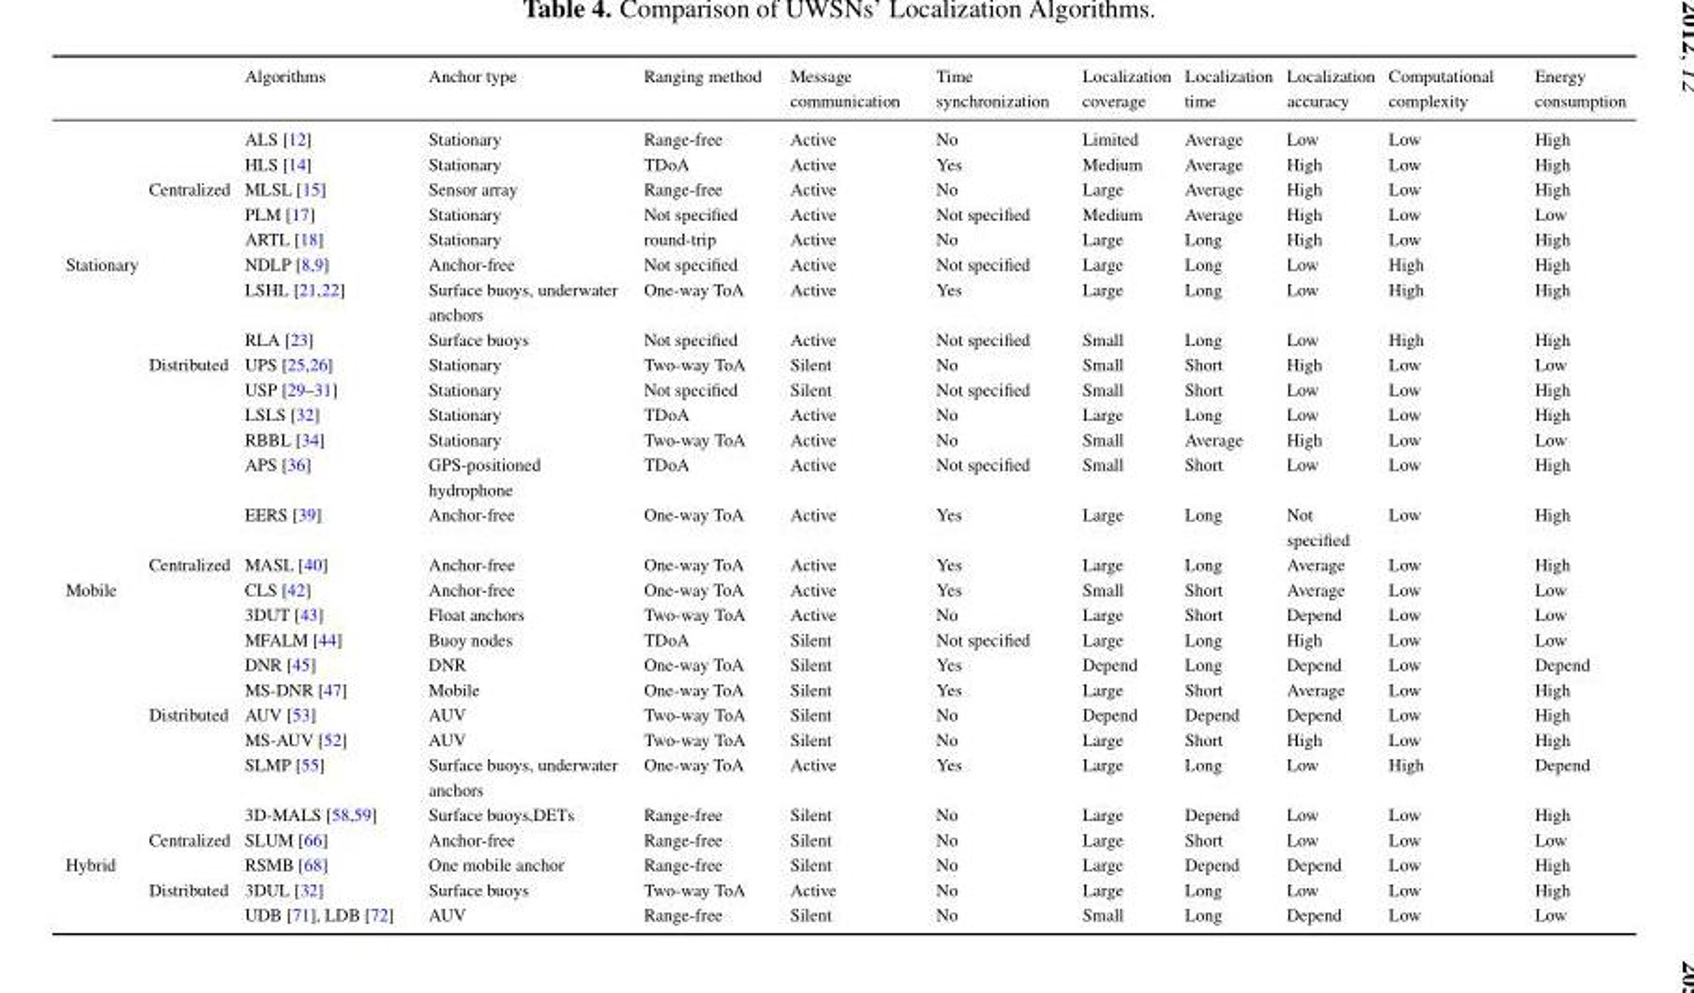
<table><thead><tr><td></td><td></td><td>Algorithms</td><td>Anchor type</td><td>Ranging method</td><td>Message communication</td><td>Time synchronization</td><td>Localization coverage</td><td>Localization time</td><td>Localization accuracy</td><td>Computational complexity</td><td>Energy consumption</td></tr></thead><tbody><tr><td></td><td></td><td>ALS [12]</td><td>Stationary</td><td>Range-free</td><td>Active</td><td>No</td><td>Limited</td><td>Average</td><td>Low</td><td>Low</td><td>High</td></tr><tr><td></td><td></td><td>HLS [14]</td><td>Stationary</td><td>TDoA</td><td>Active</td><td>Yes</td><td>Medium</td><td>Average</td><td>High</td><td>Low</td><td>High</td></tr><tr><td></td><td>Centralized</td><td>MLSL [15]</td><td>Sensor array</td><td>Range-free</td><td>Active</td><td>No</td><td>Large</td><td>Average</td><td>High</td><td>Low</td><td>High</td></tr><tr><td></td><td></td><td>PLM [17]</td><td>Stationary</td><td>Not specified</td><td>Active</td><td>Not specified</td><td>Medium</td><td>Average</td><td>High</td><td>Low</td><td>Low</td></tr><tr><td></td><td></td><td>ARTL [18]</td><td>Stationary</td><td>round-trip</td><td>Active</td><td>No</td><td>Large</td><td>Long</td><td>High</td><td>Low</td><td>High</td></tr><tr><td rowspan="10">Stationary</td><td></td><td>NDLP [8,9]</td><td>Anchor-free</td><td>Not specified</td><td>Active</td><td>Not specified</td><td>Large</td><td>Long</td><td>Low</td><td>High</td><td>High</td></tr><tr><td></td><td>LSHL [21,22]</td><td>Surface buoys, underwater anchors</td><td>One-way ToA</td><td>Active</td><td>Yes</td><td>Large</td><td>Long</td><td>Low</td><td>High</td><td>High</td></tr><tr><td></td><td>RLA [23]</td><td>Surface buoys</td><td>Not specified</td><td>Active</td><td>Not specified</td><td>Small</td><td>Long</td><td>Low</td><td>High</td><td>High</td></tr><tr><td>Distributed</td><td>UPS [25,26]</td><td>Stationary</td><td>Two-way ToA</td><td>Silent</td><td>No</td><td>Small</td><td>Short</td><td>High</td><td>Low</td><td>Low</td></tr><tr><td></td><td>USP [29–31]</td><td>Stationary</td><td>Not specified</td><td>Silent</td><td>Not specified</td><td>Small</td><td>Short</td><td>Low</td><td>Low</td><td>High</td></tr><tr><td></td><td>LSLS [32]</td><td>Stationary</td><td>TDoA</td><td>Active</td><td>No</td><td>Large</td><td>Long</td><td>Low</td><td>Low</td><td>High</td></tr><tr><td></td><td>RBBL [34]</td><td>Stationary</td><td>Two-way ToA</td><td>Active</td><td>No</td><td>Small</td><td>Average</td><td>High</td><td>Low</td><td>Low</td></tr><tr><td></td><td>APS [36]</td><td>GPS-positioned hydrophone</td><td>TDoA</td><td>Active</td><td>Not specified</td><td>Small</td><td>Short</td><td>Low</td><td>Low</td><td>High</td></tr><tr><td></td><td>EERS [39]</td><td>Anchor-free</td><td>One-way ToA</td><td>Active</td><td>Yes</td><td>Large</td><td>Long</td><td>Not specified</td><td>Low</td><td>High</td></tr><tr><td>Centralized</td><td>MASL [40]</td><td>Anchor-free</td><td>One-way ToA</td><td>Active</td><td>Yes</td><td>Large</td><td>Long</td><td>Average</td><td>Low</td><td>High</td></tr><tr><td rowspan="10">Mobile</td><td></td><td>CLS [42]</td><td>Anchor-free</td><td>One-way ToA</td><td>Active</td><td>Yes</td><td>Small</td><td>Short</td><td>Average</td><td>Low</td><td>Low</td></tr><tr><td></td><td>3DUT [43]</td><td>Float anchors</td><td>Two-way ToA</td><td>Active</td><td>No</td><td>Large</td><td>Short</td><td>Depend</td><td>Low</td><td>Low</td></tr><tr><td></td><td>MFALM [44]</td><td>Buoy nodes</td><td>TDoA</td><td>Silent</td><td>Not specified</td><td>Large</td><td>Long</td><td>High</td><td>Low</td><td>Low</td></tr><tr><td></td><td>DNR [45]</td><td>DNR</td><td>One-way ToA</td><td>Silent</td><td>Yes</td><td>Depend</td><td>Long</td><td>Depend</td><td>Low</td><td>Depend</td></tr><tr><td></td><td>MS-DNR [47]</td><td>Mobile</td><td>One-way ToA</td><td>Silent</td><td>Yes</td><td>Large</td><td>Short</td><td>Average</td><td>Low</td><td>High</td></tr><tr><td>Distributed</td><td>AUV [53]</td><td>AUV</td><td>Two-way ToA</td><td>Silent</td><td>No</td><td>Depend</td><td>Depend</td><td>Depend</td><td>Low</td><td>High</td></tr><tr><td></td><td>MS-AUV [52]</td><td>AUV</td><td>Two-way ToA</td><td>Silent</td><td>No</td><td>Large</td><td>Short</td><td>High</td><td>Low</td><td>High</td></tr><tr><td></td><td>SLMP [55]</td><td>Surface buoys, underwater anchors</td><td>One-way ToA</td><td>Active</td><td>Yes</td><td>Large</td><td>Long</td><td>Low</td><td>High</td><td>Depend</td></tr><tr><td></td><td>3D-MALS [58,59]</td><td>Surface buoys,DETs</td><td>Range-free</td><td>Silent</td><td>No</td><td>Large</td><td>Depend</td><td>Low</td><td>Low</td><td>High</td></tr><tr><td>Centralized</td><td>SLUM [66]</td><td>Anchor-free</td><td>Range-free</td><td>Silent</td><td>No</td><td>Large</td><td>Short</td><td>Low</td><td>Low</td><td>Low</td></tr><tr><td rowspan="3">Hybrid</td><td></td><td>RSMB [68]</td><td>One mobile anchor</td><td>Range-free</td><td>Silent</td><td>No</td><td>Large</td><td>Depend</td><td>Depend</td><td>Low</td><td>High</td></tr><tr><td>Distributed</td><td>3DUL [32]</td><td>Surface buoys</td><td>Two-way ToA</td><td>Active</td><td>No</td><td>Large</td><td>Long</td><td>Low</td><td>Low</td><td>High</td></tr><tr><td></td><td>UDB [71], LDB [72]</td><td>AUV</td><td>Range-free</td><td>Silent</td><td>No</td><td>Small</td><td>Long</td><td>Depend</td><td>Low</td><td>Low</td></tr></tbody></table>